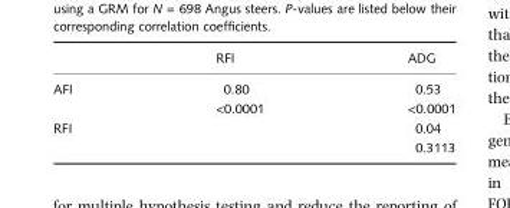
<table><thead><tr><td></td><td>RFI</td><td>ADG</td></tr></thead><tbody><tr><td rowspan="2">AFI</td><td>0.80</td><td>0.53</td></tr><tr><td>&lt;0.0001</td><td>&lt;0.0001</td></tr><tr><td rowspan="2">RFI</td><td></td><td>0.04</td></tr><tr><td></td><td>0.3113</td></tr></tbody></table>